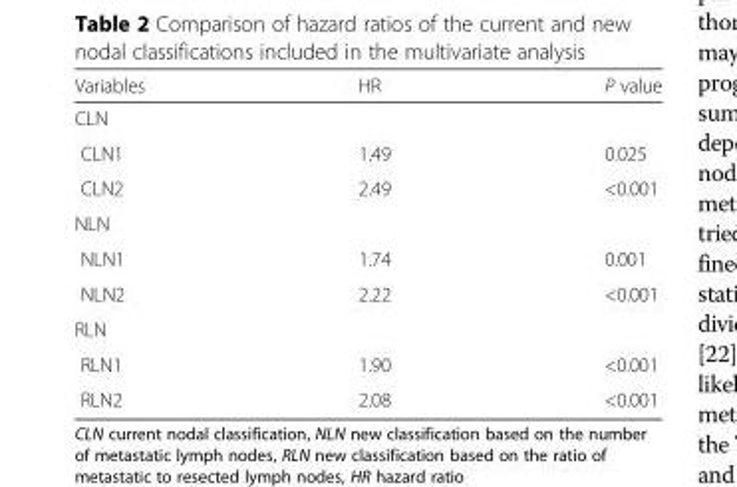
<table><thead><tr><td>Variables</td><td>HR</td><td>P value</td></tr></thead><tbody><tr><td colspan="3">CLN</td></tr><tr><td>CLN1</td><td>1.49</td><td>0.025</td></tr><tr><td>CLN2</td><td>2.49</td><td>&lt;0.001</td></tr><tr><td colspan="3">NLN</td></tr><tr><td>NLN1</td><td>1.74</td><td>0.001</td></tr><tr><td>NLN2</td><td>2.22</td><td>&lt;0.001</td></tr><tr><td colspan="3">RLN</td></tr><tr><td>RLN1</td><td>1.90</td><td>&lt;0.001</td></tr><tr><td>RLN2</td><td>2.08</td><td>&lt;0.001</td></tr></tbody></table>